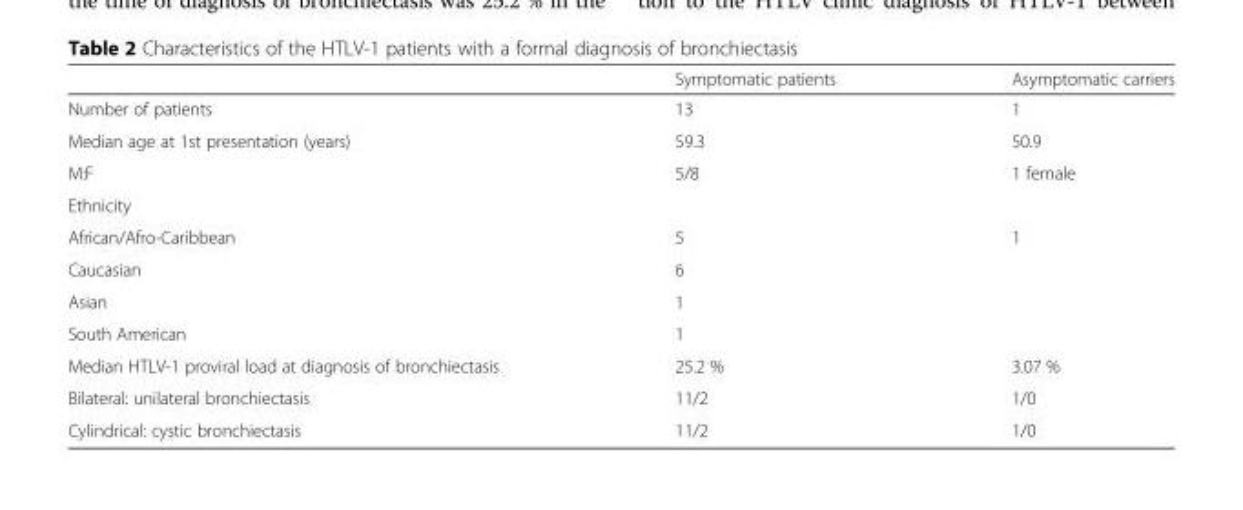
<table><thead><tr><td></td><td>Symptomatic patients</td><td>Asymptomatic carriers</td></tr></thead><tbody><tr><td>Number of patients</td><td>13</td><td>1</td></tr><tr><td>Median age at 1st presentation (years)</td><td>59.3</td><td>50.9</td></tr><tr><td>M:F</td><td>5/8</td><td>1 female</td></tr><tr><td colspan="3">Ethnicity</td></tr><tr><td>African/Afro-Caribbean</td><td>5</td><td>1</td></tr><tr><td>Caucasian</td><td>6</td><td rowspan="3"></td></tr><tr><td>Asian</td><td>1</td></tr><tr><td>South American</td><td>1</td></tr><tr><td>Median HTLV-1 proviral load at diagnosis of bronchiectasis</td><td>25.2 %</td><td>3.07 %</td></tr><tr><td>Bilateral: unilateral bronchiectasis</td><td>11/2</td><td>1/0</td></tr><tr><td>Cylindrical: cystic bronchiectasis</td><td>11/2</td><td>1/0</td></tr></tbody></table>